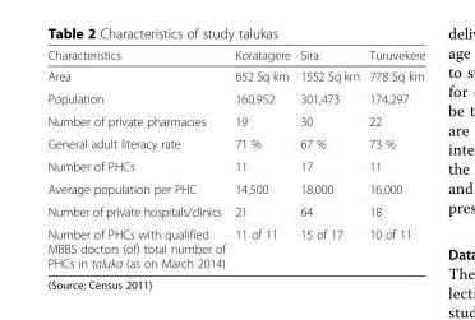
<table><thead><tr><td>Characteristics</td><td>Koratagere</td><td>Sira</td><td>Turuvekere</td></tr></thead><tbody><tr><td>Area</td><td>652 Sq km</td><td>1552 Sq km</td><td>778 Sq km</td></tr><tr><td>Population</td><td>160,952</td><td>301,473</td><td>174,297</td></tr><tr><td>Number of private pharmacies</td><td>19</td><td>30</td><td>22</td></tr><tr><td>General adult literacy rate</td><td>71 %</td><td>67 %</td><td>73 %</td></tr><tr><td>Number of PHCs</td><td>11</td><td>17</td><td>11</td></tr><tr><td>Average population per PHC</td><td>14,500</td><td>18,000</td><td>16,000</td></tr><tr><td>Number of private hospitals/clinics</td><td>21</td><td>64</td><td>18</td></tr><tr><td>Number of PHCs with qualified MBBS doctors (of) total number of PHCs in taluka (as on March 2014)</td><td>11 of 11</td><td>15 of 17</td><td>10 of 11</td></tr></tbody></table>